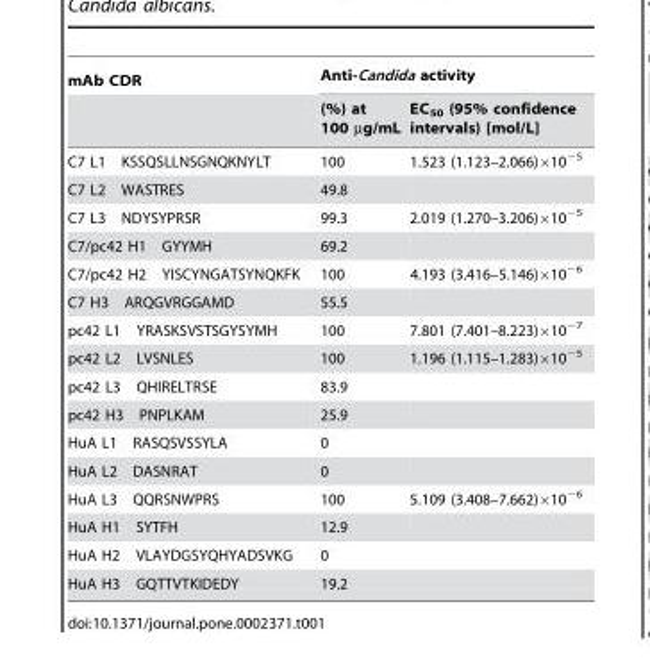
<table><thead><tr><td rowspan="2">mAb CDR</td><td colspan="2">Anti-Candida activity</td></tr><tr><td>(%) at 100 µg/mL</td><td>EC<sub>50</sub> (95% confidence intervals) [mol/L]</td></tr></thead><tbody><tr><td>C7 L1 KSSQSLLNSGNQKNYLT</td><td>100</td><td>1.523 (1.123–2.066)×10<sup>−5</sup></td></tr><tr><td>C7 L2 WASTRES</td><td>49.8</td><td></td></tr><tr><td>C7 L3 NDYSYPRSR</td><td>99.3</td><td>2.019 (1.270–3.206)×10<sup>−5</sup></td></tr><tr><td>C7/pc42 H1 GYYMH</td><td>69.2</td><td></td></tr><tr><td>C7/pc42 H2 YISCYNGATSYNQKFK</td><td>100</td><td>4.193 (3.416–5.146)×10<sup>−6</sup></td></tr><tr><td>C7 H3 ARQGVRGGAMD</td><td>55.5</td><td></td></tr><tr><td>pc42 L1 YRASKSVSTSGYSYMH</td><td>100</td><td>7.801 (7.401–8.223)×10<sup>−7</sup></td></tr><tr><td>pc42 L2 LVSNLES</td><td>100</td><td>1.196 (1.115–1.283)×10<sup>−5</sup></td></tr><tr><td>pc42 L3 QHIRELTRSE</td><td>83.9</td><td></td></tr><tr><td>pc42 H3 PNPLKAM</td><td>25.9</td><td></td></tr><tr><td>HuA L1 RASQSVSSYLA</td><td>0</td><td></td></tr><tr><td>HuA L2 DASNRAT</td><td>0</td><td></td></tr><tr><td>HuA L3 QQRSNWPRS</td><td>100</td><td>5.109 (3.408–7.662)×10<sup>−6</sup></td></tr><tr><td>HuA H1 SYTFH</td><td>12.9</td><td></td></tr><tr><td>HuA H2 VLAYDGSYQHYADSVKG</td><td>0</td><td></td></tr><tr><td>HuA H3 GQTTVTKIDEDY</td><td>19.2</td><td></td></tr></tbody></table>